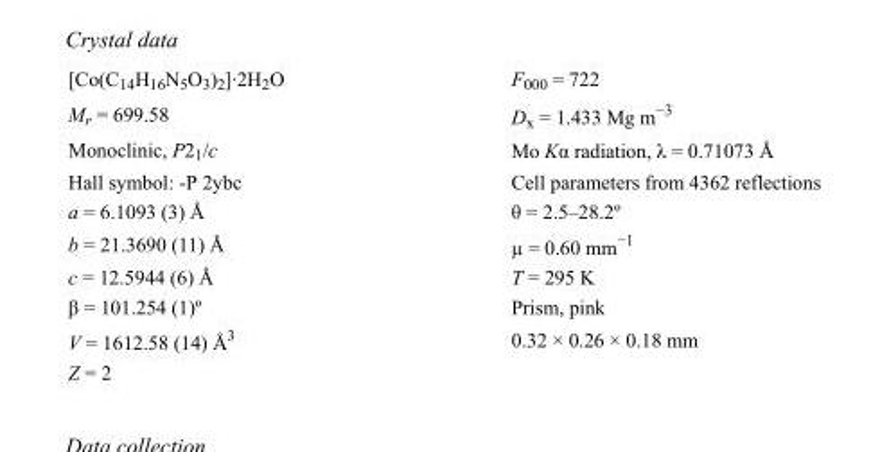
<table><tbody><tr><td>[Co(C<sub>14</sub>H<sub>16</sub>N<sub>5</sub>O<sub>3</sub>)<sub>2</sub>]·2H<sub>2</sub>O</td><td>F000 = 722</td></tr><tr><td>M<sub>r</sub> = 699.58</td><td>D<sub>x</sub> = 1.433 Mg m<sup>−3</sup></td></tr><tr><td>Monoclinic, P2<sub>1</sub>/c</td><td>Mo Kα radiation, λ = 0.71073 Å</td></tr><tr><td>Hall symbol: -P 2ybc</td><td>Cell parameters from 4362 reflections</td></tr><tr><td>a = 6.1093 (3) Å</td><td>θ = 2.5–28.2º</td></tr><tr><td>b = 21.3690 (11) Å</td><td>µ = 0.60 mm<sup>−1</sup></td></tr><tr><td>c = 12.5944 (6) Å</td><td>T = 295 K</td></tr><tr><td>β = 101.254 (1)º</td><td>Prism, pink</td></tr><tr><td>V = 1612.58 (14) Å<sup>3</sup></td><td>0.32 × 0.26 × 0.18 mm</td></tr><tr><td>Z = 2</td><td></td></tr></tbody></table>